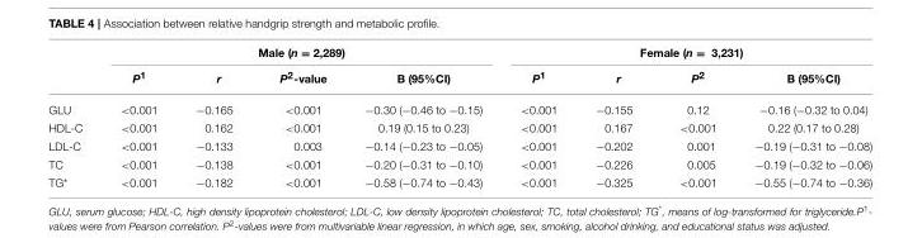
<table><thead><tr><td rowspan="2"></td><td colspan="4">Male (n = 2,289)</td><td colspan="4">Female (n = 3,231)</td></tr><tr><td>P<sup>1</sup></td><td>r</td><td>P<sup>2</sup>-value</td><td>B (95%CI)</td><td>P<sup>1</sup></td><td>r</td><td>P<sup>2</sup></td><td>B (95%CI)</td></tr></thead><tbody><tr><td>GLU</td><td>&lt;0.001</td><td>−0.165</td><td>&lt;0.001</td><td>−0.30 (−0.46 to −0.15)</td><td>&lt;0.001</td><td>−0.155</td><td>0.12</td><td>−0.16 (−0.32 to 0.04)</td></tr><tr><td>HDL-C</td><td>&lt;0.001</td><td>0.162</td><td>&lt;0.001</td><td>0.19 (0.15 to 0.23)</td><td>&lt;0.001</td><td>0.167</td><td>&lt;0.001</td><td>0.22 (0.17 to 0.28)</td></tr><tr><td>LDL-C</td><td>&lt;0.001</td><td>−0.133</td><td>0.003</td><td>−0.14 (−0.23 to −0.05)</td><td>&lt;0.001</td><td>−0.202</td><td>0.001</td><td>−0.19 (−0.31 to −0.08)</td></tr><tr><td>TC</td><td>&lt;0.001</td><td>−0.138</td><td>&lt;0.001</td><td>−0.20 (−0.31 to −0.10)</td><td>&lt;0.001</td><td>−0.226</td><td>0.005</td><td>−0.19 (−0.32 to −0.06)</td></tr><tr><td>TG*</td><td>&lt;0.001</td><td>−0.182</td><td>&lt;0.001</td><td>−0.58 (−0.74 to −0.43)</td><td>&lt;0.001</td><td>−0.325</td><td>&lt;0.001</td><td>−0.55 (−0.74 to −0.36)</td></tr></tbody></table>